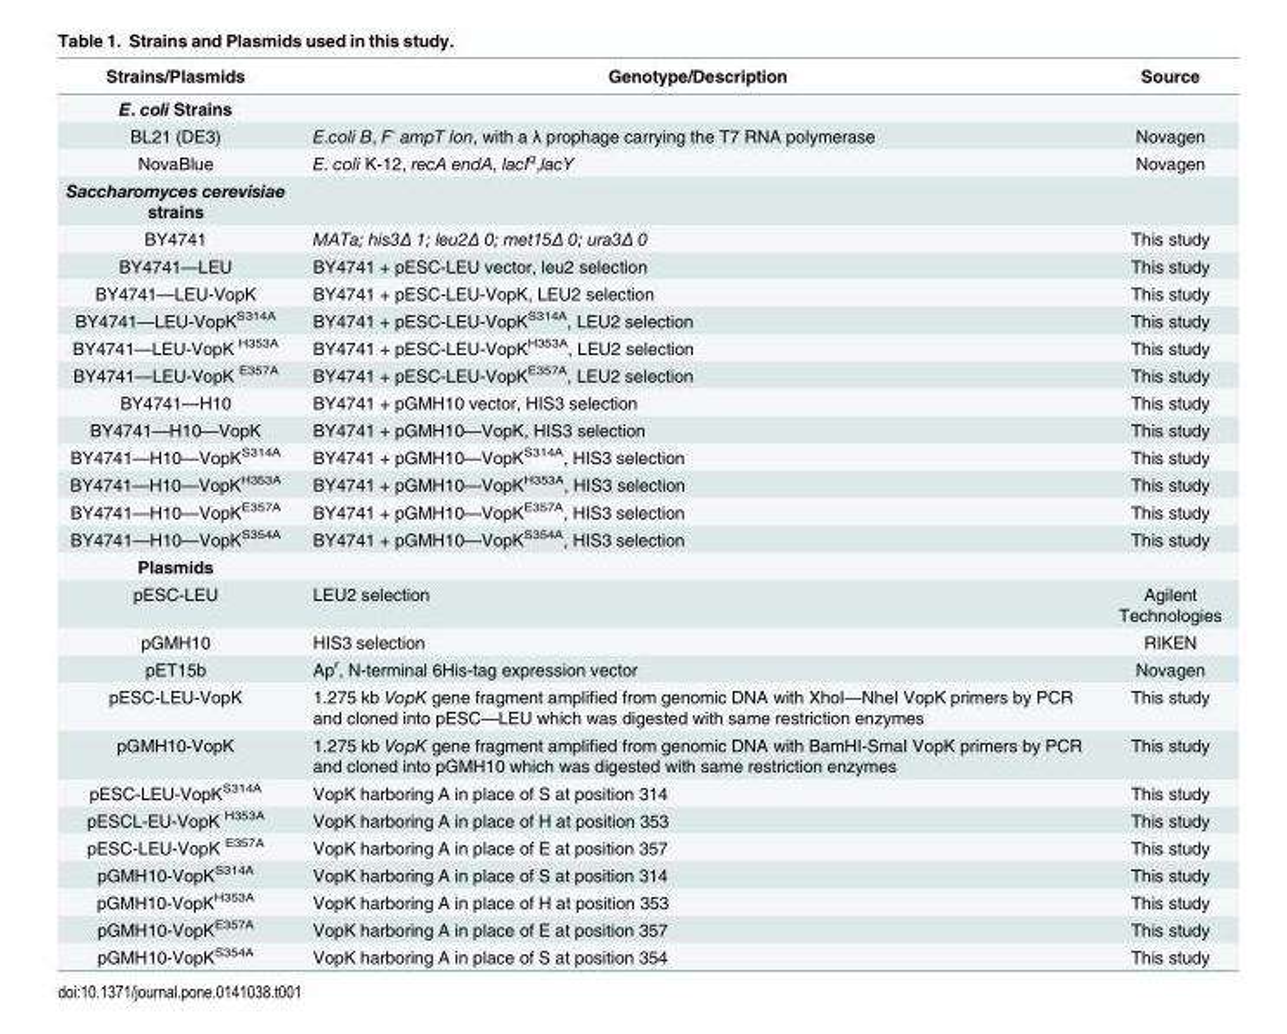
<table><thead><tr><td>Strains/Plasmids</td><td>Genotype/Description</td><td>Source</td></tr></thead><tbody><tr><td colspan="3">E. coli Strains</td></tr><tr><td>BL21 (DE3)</td><td>E.coli B, F<sup>-</sup> ampT lon, with a λ prophage carrying the T7 RNA polymerase</td><td>Novagen</td></tr><tr><td>NovaBlue</td><td>E. coli K-12, recA endA, lacI<sup>q</sup>,lacY</td><td>Novagen</td></tr><tr><td colspan="3">Saccharomyces cerevisiae strains</td></tr><tr><td>BY4741</td><td>MATa; his3Δ 1; leu2Δ 0; met15Δ 0; ura3Δ 0</td><td>This study</td></tr><tr><td>BY4741—LEU</td><td>BY4741 + pESC-LEU vector, leu2 selection</td><td>This study</td></tr><tr><td>BY4741—LEU-VopK</td><td>BY4741 + pESC-LEU-VopK, LEU2 selection</td><td>This study</td></tr><tr><td>BY4741—LEU-VopK<sup>S314A</sup></td><td>BY4741 + pESC-LEU-VopK<sup>S314A</sup>, LEU2 selection</td><td>This study</td></tr><tr><td>BY4741—LEU-VopK <sup>H353A</sup></td><td>BY4741 + pESC-LEU-VopK<sup>H353A</sup>, LEU2 selection</td><td>This study</td></tr><tr><td>BY4741—LEU-VopK <sup>E357A</sup></td><td>BY4741 + pESC-LEU-VopK<sup>E357A</sup>, LEU2 selection</td><td>This study</td></tr><tr><td>BY4741—H10</td><td>BY4741 + pGMH10 vector, HIS3 selection</td><td>This study</td></tr><tr><td>BY4741—H10—VopK</td><td>BY4741 + pGMH10—VopK, HIS3 selection</td><td>This study</td></tr><tr><td>BY4741—H10—VopK<sup>S314A</sup></td><td>BY4741 + pGMH10—VopK<sup>S314A</sup>, HIS3 selection</td><td>This study</td></tr><tr><td>BY4741—H10—VopK<sup>H353A</sup></td><td>BY4741 + pGMH10—VopK<sup>H353A</sup>, HIS3 selection</td><td>This study</td></tr><tr><td>BY4741—H10—VopK<sup>E357A</sup></td><td>BY4741 + pGMH10—VopK<sup>E357A</sup>, HIS3 selection</td><td>This study</td></tr><tr><td>BY4741—H10—VopK<sup>S354A</sup></td><td>BY4741 + pGMH10—VopK<sup>S354A</sup>, HIS3 selection</td><td>This study</td></tr><tr><td colspan="3">Plasmids</td></tr><tr><td>pESC-LEU</td><td>LEU2 selection</td><td>Agilent Technologies</td></tr><tr><td>pGMH10</td><td>HIS3 selection</td><td>RIKEN</td></tr><tr><td>pET15b</td><td>Ap<sup>r</sup>, N-terminal 6His-tag expression vector</td><td>Novagen</td></tr><tr><td>pESC-LEU-VopK</td><td>1.275 kb VopK gene fragment amplified from genomic DNA with XhoI—NheI VopK primers by PCR and cloned into pESC—LEU which was digested with same restriction enzymes</td><td>This study</td></tr><tr><td>pGMH10-VopK</td><td>1.275 kb VopK gene fragment amplified from genomic DNA with BamHI-SmaI VopK primers by PCR and cloned into pGMH10 which was digested with same restriction enzymes</td><td>This study</td></tr><tr><td>pESC-LEU-VopK<sup>S314A</sup></td><td>VopK harboring A in place of S at position 314</td><td>This study</td></tr><tr><td>pESCL-EU-VopK <sup>H353A</sup></td><td>VopK harboring A in place of H at position 353</td><td>This study</td></tr><tr><td>pESC-LEU-VopK <sup>E357A</sup></td><td>VopK harboring A in place of E at position 357</td><td>This study</td></tr><tr><td>pGMH10-VopK<sup>S314A</sup></td><td>VopK harboring A in place of S at position 314</td><td>This study</td></tr><tr><td>pGMH10-VopK<sup>H353A</sup></td><td>VopK harboring A in place of H at position 353</td><td>This study</td></tr><tr><td>pGMH10-VopK<sup>E357A</sup></td><td>VopK harboring A in place of E at position 357</td><td>This study</td></tr><tr><td>pGMH10-VopK<sup>S354A</sup></td><td>VopK harboring A in place of S at position 354</td><td>This study</td></tr></tbody></table>